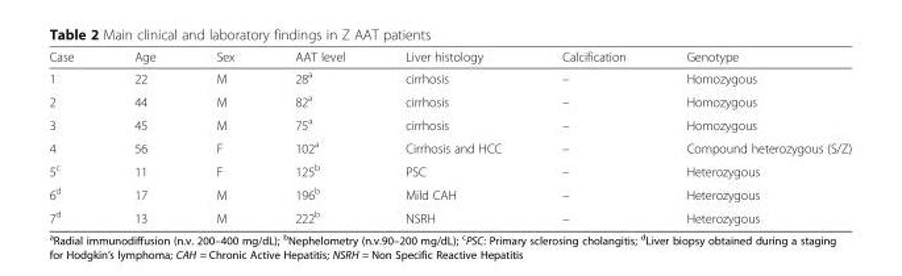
<table><thead><tr><td>Case</td><td>Age</td><td>Sex</td><td>AAT level</td><td>Liver histology</td><td>Calcification</td><td>Genotype</td></tr></thead><tbody><tr><td>1</td><td>22</td><td>M</td><td>28<sup>a</sup></td><td>cirrhosis</td><td>–</td><td>Homozygous</td></tr><tr><td>2</td><td>44</td><td>M</td><td>82<sup>a</sup></td><td>cirrhosis</td><td>–</td><td>Homozygous</td></tr><tr><td>3</td><td>45</td><td>M</td><td>75<sup>a</sup></td><td>cirrhosis</td><td>–</td><td>Homozygous</td></tr><tr><td>4</td><td>56</td><td>F</td><td>102<sup>a</sup></td><td>Cirrhosis and HCC</td><td>–</td><td>Compound heterozygous (S/Z)</td></tr><tr><td>5<sup>c</sup></td><td>11</td><td>F</td><td>125<sup>b</sup></td><td>PSC</td><td>–</td><td>Heterozygous</td></tr><tr><td>6<sup>d</sup></td><td>17</td><td>M</td><td>196<sup>b</sup></td><td>Mild CAH</td><td>–</td><td>Heterozygous</td></tr><tr><td>7<sup>d</sup></td><td>13</td><td>M</td><td>222<sup>b</sup></td><td>NSRH</td><td>–</td><td>Heterozygous</td></tr></tbody></table>